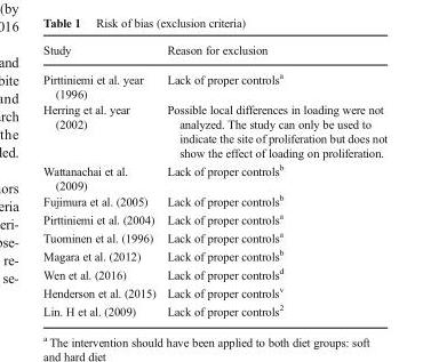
<table><thead><tr><td>Study</td><td>Reason for exclusion</td></tr></thead><tbody><tr><td>Pirttiniemi et al. year (1996)</td><td>Lack of proper controls<sup>a</sup></td></tr><tr><td>Herring et al. year (2002)</td><td>Possible local differences in loading were not analyzed. The study can only be used to indicate the site of proliferation but does not show the effect of loading on proliferation.</td></tr><tr><td>Wattanachai et al. (2009)</td><td>Lack of proper controls<sup>b</sup></td></tr><tr><td>Fujimura et al. (2005)</td><td>Lack of proper controls<sup>b</sup></td></tr><tr><td>Pirttiniemi et al. (2004)</td><td>Lack of proper controls<sup>a</sup></td></tr><tr><td>Tuominen et al. (1996)</td><td>Lack of proper controls<sup>a</sup></td></tr><tr><td>Magara et al. (2012)</td><td>Lack of proper controls<sup>b</sup></td></tr><tr><td>Wen et al. (2016)</td><td>Lack of proper controls<sup>d</sup></td></tr><tr><td>Henderson et al. (2015)</td><td>Lack of proper controls<sup>v</sup></td></tr><tr><td>Lin. H et al. (2009)</td><td>Lack of proper controls<sup>2</sup></td></tr></tbody></table>